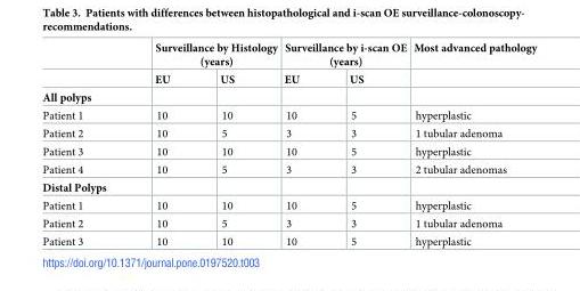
<table><thead><tr><td rowspan="2"></td><td colspan="2">Surveillance by Histology (years)</td><td colspan="2">Surveillance by i-scan OE (years)</td><td rowspan="2">Most advanced pathology</td></tr><tr><td>EU</td><td>US</td><td>EU</td><td>US</td></tr></thead><tbody><tr><td colspan="6">All polyps</td></tr><tr><td>Patient 1</td><td>10</td><td>10</td><td>10</td><td>5</td><td>hyperplastic</td></tr><tr><td>Patient 2</td><td>10</td><td>5</td><td>3</td><td>3</td><td>1 tubular adenoma</td></tr><tr><td>Patient 3</td><td>10</td><td>10</td><td>10</td><td>5</td><td>hyperplastic</td></tr><tr><td>Patient 4</td><td>10</td><td>5</td><td>3</td><td>3</td><td>2 tubular adenomas</td></tr><tr><td colspan="6">Distal Polyps</td></tr><tr><td>Patient 1</td><td>10</td><td>10</td><td>10</td><td>5</td><td>hyperplastic</td></tr><tr><td>Patient 2</td><td>10</td><td>5</td><td>3</td><td>3</td><td>1 tubular adenoma</td></tr><tr><td>Patient 3</td><td>10</td><td>10</td><td>10</td><td>5</td><td>hyperplastic</td></tr></tbody></table>